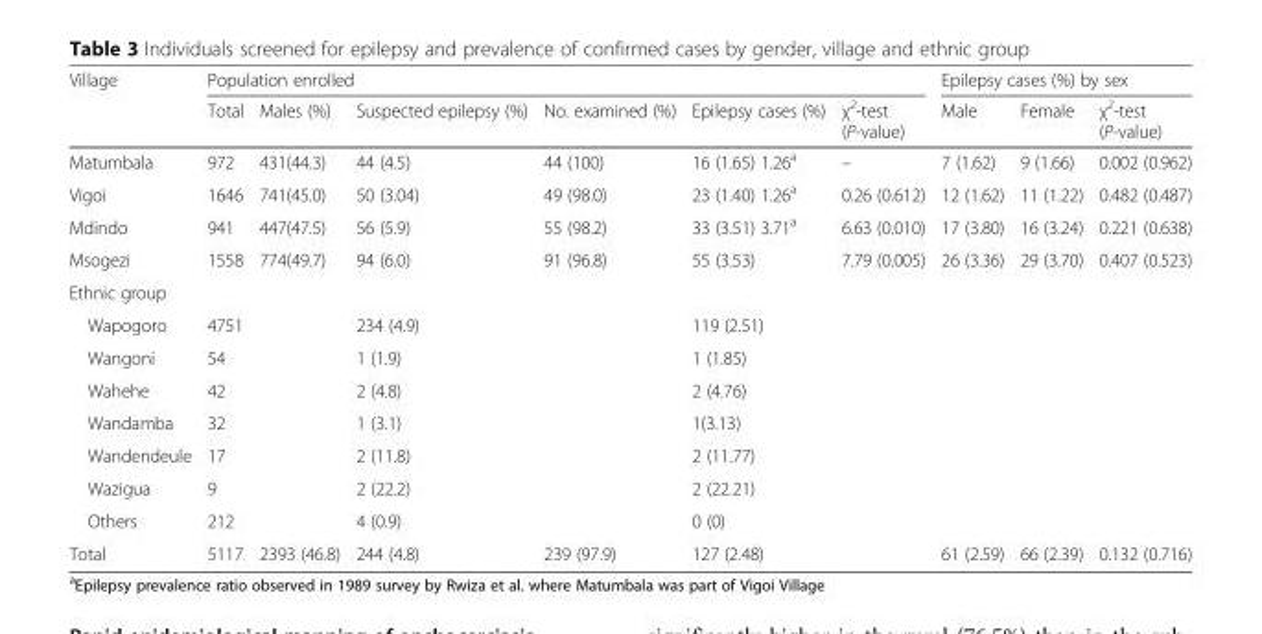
<table><thead><tr><td rowspan="2">Village</td><td colspan="6">Population enrolled</td><td colspan="3">Epilepsy cases (%) by sex</td></tr><tr><td>Total</td><td>Males (%)</td><td>Suspected epilepsy (%)</td><td>No. examined (%)</td><td>Epilepsy cases (%)</td><td>χ<sup>2</sup>-test (P-value)</td><td>Male</td><td>Female</td><td>χ<sup>2</sup>-test (P-value)</td></tr></thead><tbody><tr><td>Matumbala</td><td>972</td><td>431(44.3)</td><td>44 (4.5)</td><td>44 (100)</td><td>16 (1.65) 1.26<sup>a</sup></td><td>–</td><td>7 (1.62)</td><td>9 (1.66)</td><td>0.002 (0.962)</td></tr><tr><td>Vigoi</td><td>1646</td><td>741(45.0)</td><td>50 (3.04)</td><td>49 (98.0)</td><td>23 (1.40) 1.26<sup>a</sup></td><td>0.26 (0.612)</td><td>12 (1.62)</td><td>11 (1.22)</td><td>0.482 (0.487)</td></tr><tr><td>Mdindo</td><td>941</td><td>447(47.5)</td><td>56 (5.9)</td><td>55 (98.2)</td><td>33 (3.51) 3.71<sup>a</sup></td><td>6.63 (0.010)</td><td>17 (3.80)</td><td>16 (3.24)</td><td>0.221 (0.638)</td></tr><tr><td>Msogezi</td><td>1558</td><td>774(49.7)</td><td>94 (6.0)</td><td>91 (96.8)</td><td>55 (3.53)</td><td>7.79 (0.005)</td><td>26 (3.36)</td><td>29 (3.70)</td><td>0.407 (0.523)</td></tr><tr><td colspan="10">Ethnic group</td></tr><tr><td>Wapogoro</td><td>4751</td><td></td><td>234 (4.9)</td><td></td><td>119 (2.51)</td><td></td><td></td><td></td><td></td></tr><tr><td>Wangoni</td><td>54</td><td></td><td>1 (1.9)</td><td></td><td>1 (1.85)</td><td></td><td></td><td></td><td></td></tr><tr><td>Wahehe</td><td>42</td><td></td><td>2 (4.8)</td><td></td><td>2 (4.76)</td><td></td><td></td><td></td><td></td></tr><tr><td>Wandamba</td><td>32</td><td></td><td>1 (3.1)</td><td></td><td>1(3.13)</td><td></td><td></td><td></td><td></td></tr><tr><td>Wandendeule</td><td>17</td><td></td><td>2 (11.8)</td><td></td><td>2 (11.77)</td><td></td><td></td><td></td><td></td></tr><tr><td>Wazigua</td><td>9</td><td></td><td>2 (22.2)</td><td></td><td>2 (22.21)</td><td></td><td></td><td></td><td></td></tr><tr><td>Others</td><td>212</td><td></td><td>4 (0.9)</td><td></td><td>0 (0)</td><td></td><td></td><td></td><td></td></tr><tr><td>Total</td><td>5117</td><td>2393 (46.8)</td><td>244 (4.8)</td><td>239 (97.9)</td><td>127 (2.48)</td><td></td><td>61 (2.59)</td><td>66 (2.39)</td><td>0.132 (0.716)</td></tr></tbody></table>